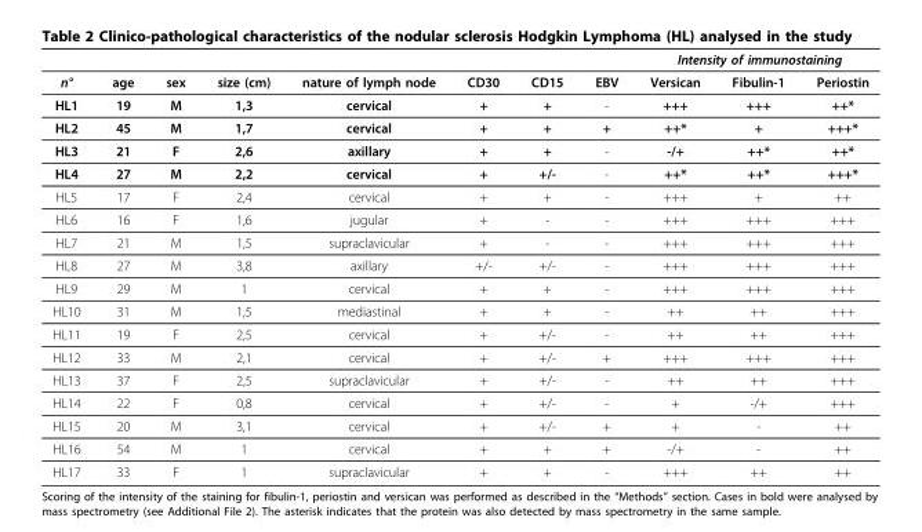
<table><thead><tr><td rowspan="2">n°</td><td rowspan="2">age</td><td rowspan="2">sex</td><td rowspan="2">size (cm)</td><td rowspan="2">nature of lymph node</td><td rowspan="2">CD30</td><td rowspan="2">CD15</td><td rowspan="2">EBV</td><td colspan="3">Intensity of immunostaining</td></tr><tr><td>Versican</td><td>Fibulin-1</td><td>Periostin</td></tr></thead><tbody><tr><td>HL1</td><td>19</td><td>M</td><td>1,3</td><td>cervical</td><td>+</td><td>+</td><td>-</td><td>+++</td><td>+++</td><td>++*</td></tr><tr><td>HL2</td><td>45</td><td>M</td><td>1,7</td><td>cervical</td><td>+</td><td>+</td><td>+</td><td>++*</td><td>+</td><td>+++*</td></tr><tr><td>HL3</td><td>21</td><td>F</td><td>2,6</td><td>axillary</td><td>+</td><td>+</td><td>-</td><td>-/+</td><td>++*</td><td>++*</td></tr><tr><td>HL4</td><td>27</td><td>M</td><td>2,2</td><td>cervical</td><td>+</td><td>+/-</td><td>-</td><td>++*</td><td>++*</td><td>+++*</td></tr><tr><td>HL5</td><td>17</td><td>F</td><td>2,4</td><td>cervical</td><td>+</td><td>+</td><td>-</td><td>+++</td><td>+</td><td>++</td></tr><tr><td>HL6</td><td>16</td><td>F</td><td>1,6</td><td>jugular</td><td>+</td><td>-</td><td>-</td><td>+++</td><td>+++</td><td>+++</td></tr><tr><td>HL7</td><td>21</td><td>M</td><td>1,5</td><td>supraclavicular</td><td>+</td><td>-</td><td>-</td><td>+++</td><td>+++</td><td>+++</td></tr><tr><td>HL8</td><td>27</td><td>M</td><td>3,8</td><td>axillary</td><td>+/-</td><td>+/-</td><td>-</td><td>+++</td><td>+++</td><td>+++</td></tr><tr><td>HL9</td><td>29</td><td>M</td><td>1</td><td>cervical</td><td>+</td><td>+</td><td>-</td><td>+++</td><td>+++</td><td>+++</td></tr><tr><td>HL10</td><td>31</td><td>M</td><td>1,5</td><td>mediastinal</td><td>+</td><td>+</td><td>-</td><td>++</td><td>++</td><td>+++</td></tr><tr><td>HL11</td><td>19</td><td>F</td><td>2,5</td><td>cervical</td><td>+</td><td>+/-</td><td>-</td><td>++</td><td>++</td><td>+++</td></tr><tr><td>HL12</td><td>33</td><td>M</td><td>2,1</td><td>cervical</td><td>+</td><td>+/-</td><td>+</td><td>+++</td><td>+++</td><td>+++</td></tr><tr><td>HL13</td><td>37</td><td>F</td><td>2,5</td><td>supraclavicular</td><td>+</td><td>+/-</td><td>-</td><td>++</td><td>++</td><td>+++</td></tr><tr><td>HL14</td><td>22</td><td>F</td><td>0,8</td><td>cervical</td><td>+</td><td>+/-</td><td>-</td><td>+</td><td>-/+</td><td>+++</td></tr><tr><td>HL15</td><td>20</td><td>M</td><td>3,1</td><td>cervical</td><td>+</td><td>+/-</td><td>+</td><td>+</td><td>-</td><td>++</td></tr><tr><td>HL16</td><td>54</td><td>M</td><td>1</td><td>cervical</td><td>+</td><td>+</td><td>+</td><td>-/+</td><td>-</td><td>++</td></tr><tr><td>HL17</td><td>33</td><td>F</td><td>1</td><td>supraclavicular</td><td>+</td><td>+</td><td>-</td><td>+++</td><td>++</td><td>++</td></tr></tbody></table>